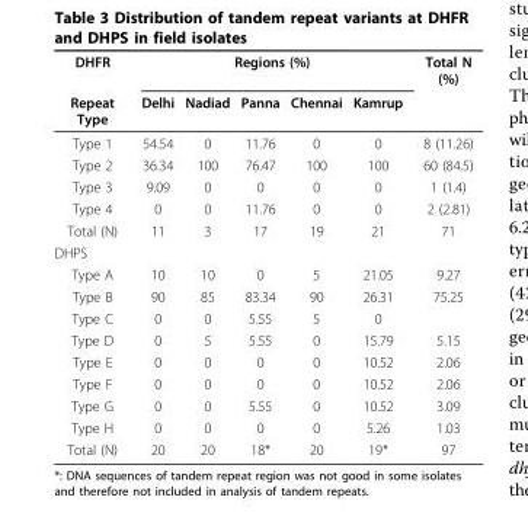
<table><thead><tr><td rowspan="2">DHFR Repeat Type</td><td colspan="5">Regions (%)</td><td rowspan="2">Total N (%)</td></tr><tr><td>Delhi</td><td>Nadiad</td><td>Panna</td><td>Chennai</td><td>Kamrup</td></tr></thead><tbody><tr><td>Type 1</td><td>54.54</td><td>0</td><td>11.76</td><td>0</td><td>0</td><td>8 (11.26)</td></tr><tr><td>Type 2</td><td>36.34</td><td>100</td><td>76.47</td><td>100</td><td>100</td><td>60 (84.5)</td></tr><tr><td>Type 3</td><td>9.09</td><td>0</td><td>0</td><td>0</td><td>0</td><td>1 (1.4)</td></tr><tr><td>Type 4</td><td>0</td><td>0</td><td>11.76</td><td>0</td><td>0</td><td>2 (2.81)</td></tr><tr><td>Total (N)</td><td>11</td><td>3</td><td>17</td><td>19</td><td>21</td><td>71</td></tr><tr><td colspan="7">DHPS</td></tr><tr><td>Type A</td><td>10</td><td>10</td><td>0</td><td>5</td><td>21.05</td><td>9.27</td></tr><tr><td>Type B</td><td>90</td><td>85</td><td>83.34</td><td>90</td><td>26.31</td><td>75.25</td></tr><tr><td>Type C</td><td>0</td><td>0</td><td>5.55</td><td>5</td><td>0</td><td></td></tr><tr><td>Type D</td><td>0</td><td>5</td><td>5.55</td><td>0</td><td>15.79</td><td>5.15</td></tr><tr><td>Type E</td><td>0</td><td>0</td><td>0</td><td>0</td><td>10.52</td><td>2.06</td></tr><tr><td>Type F</td><td>0</td><td>0</td><td>0</td><td>0</td><td>10.52</td><td>2.06</td></tr><tr><td>Type G</td><td>0</td><td>0</td><td>5.55</td><td>0</td><td>10.52</td><td>3.09</td></tr><tr><td>Type H</td><td>0</td><td>0</td><td>0</td><td>0</td><td>5.26</td><td>1.03</td></tr><tr><td>Total (N)</td><td>20</td><td>20</td><td>18*</td><td>20</td><td>19*</td><td>97</td></tr></tbody></table>